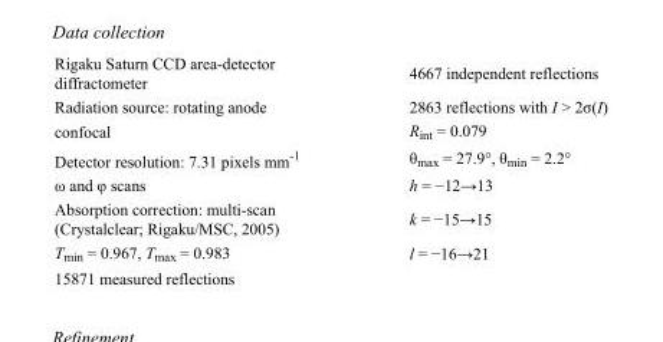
<table><tbody><tr><td>Rigaku Saturn CCD area-detector diffractometer</td><td>4667 independent reflections</td></tr><tr><td>Radiation source: rotating anode</td><td>2863 reflections with I &gt; 2σ(I)</td></tr><tr><td>confocal</td><td>R<sub>int</sub> = 0.079</td></tr><tr><td>Detector resolution: 7.31 pixels mm<sup>-1</sup></td><td>θ<sub>max</sub> = 27.9°, θ<sub>min</sub> = 2.2°</td></tr><tr><td>ω and φ scans</td><td>h = −12→13</td></tr><tr><td>Absorption correction: multi-scan (Crystalclear; Rigaku/MSC, 2005)</td><td>k = −15→15</td></tr><tr><td>T<sub>min</sub> = 0.967, T<sub>max</sub> = 0.983</td><td>l = −16→21</td></tr><tr><td>15871 measured reflections</td><td></td></tr></tbody></table>